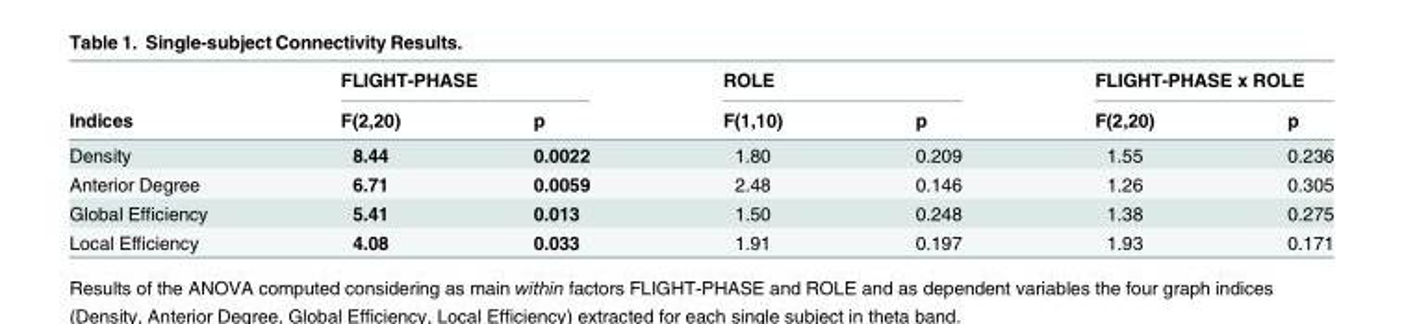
<table><thead><tr><td rowspan="2">Indices</td><td colspan="2">FLIGHT-PHASE</td><td colspan="2">ROLE</td><td colspan="2">FLIGHT-PHASE x ROLE</td></tr><tr><td>F(2,20)</td><td>p</td><td>F(1,10)</td><td>p</td><td>F(2,20)</td><td>p</td></tr></thead><tbody><tr><td>Density</td><td>8.44</td><td>0.0022</td><td>1.80</td><td>0.209</td><td>1.55</td><td>0.236</td></tr><tr><td>Anterior Degree</td><td>6.71</td><td>0.0059</td><td>2.48</td><td>0.146</td><td>1.26</td><td>0.305</td></tr><tr><td>Global Efficiency</td><td>5.41</td><td>0.013</td><td>1.50</td><td>0.248</td><td>1.38</td><td>0.275</td></tr><tr><td>Local Efficiency</td><td>4.08</td><td>0.033</td><td>1.91</td><td>0.197</td><td>1.93</td><td>0.171</td></tr></tbody></table>